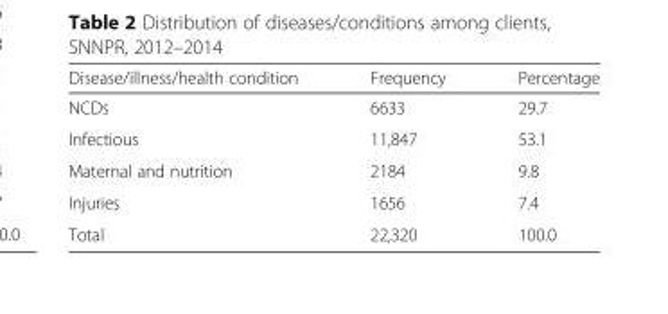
<table><thead><tr><td>Disease/illness/health condition</td><td>Frequency</td><td>Percentage</td></tr></thead><tbody><tr><td>NCDs</td><td>6633</td><td>29.7</td></tr><tr><td>Infectious</td><td>11,847</td><td>53.1</td></tr><tr><td>Maternal and nutrition</td><td>2184</td><td>9.8</td></tr><tr><td>Injuries</td><td>1656</td><td>7.4</td></tr><tr><td>Total</td><td>22,320</td><td>100.0</td></tr></tbody></table>